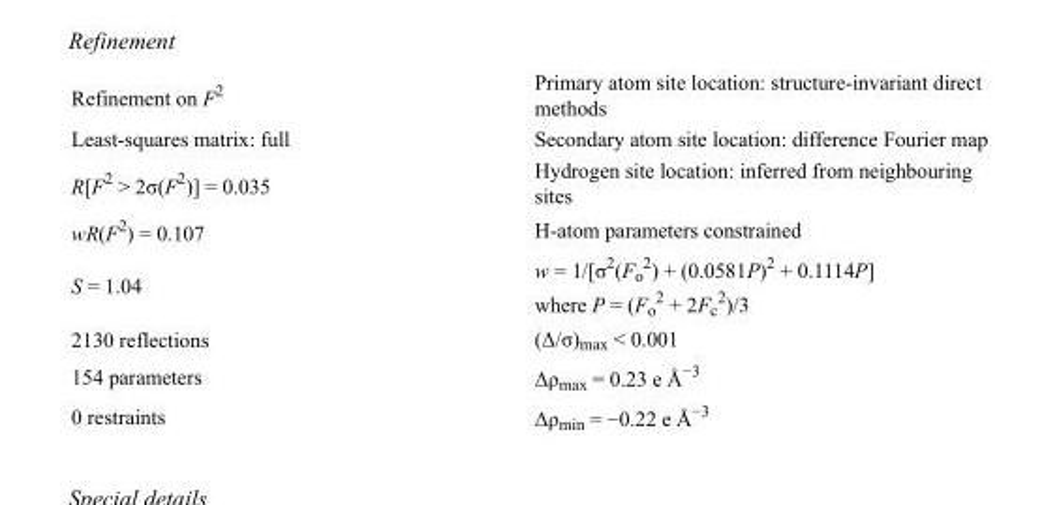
<table><tbody><tr><td>Refinement on F<sup>2</sup></td><td>Primary atom site location: structure-invariant direct methods</td></tr><tr><td>Least-squares matrix: full</td><td>Secondary atom site location: difference Fourier map</td></tr><tr><td>R[F<sup>2</sup> &gt; 2σ(F<sup>2</sup>)] = 0.035</td><td>Hydrogen site location: inferred from neighbouring sites</td></tr><tr><td>wR(F<sup>2</sup>) = 0.107</td><td>H-atom parameters constrained</td></tr><tr><td>S = 1.04</td><td>w = 1/[σ<sup>2</sup>(F<sub>o</sub> <sup>2</sup>) + (0.0581P)<sup>2</sup> + 0.1114P] where P = (F<sub>o</sub> <sup>2</sup> + 2F<sub>c</sub> <sup>2</sup>)/3</td></tr><tr><td>2130 reflections</td><td>(Δ/σ)<sub>max</sub> &lt; 0.001</td></tr><tr><td>154 parameters</td><td>Δρ<sub>max</sub> = 0.23 e Å<sup>−3</sup></td></tr><tr><td>0 restraints</td><td>Δρ<sub>min</sub> = −0.22 e Å<sup>−3</sup></td></tr></tbody></table>